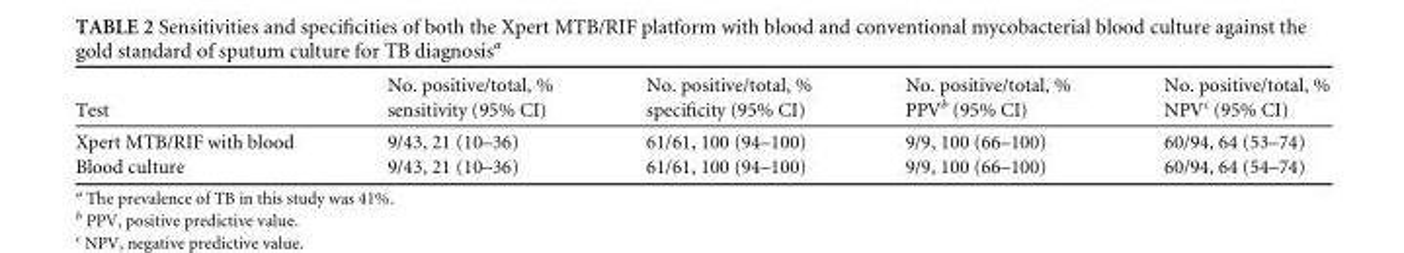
<table><thead><tr><td>Test</td><td>No. positive/total, % sensitivity (95% CI)</td><td>No. positive/total, % specificity (95% CI)</td><td>No. positive/total, % PPV<sup>b</sup> (95% CI)</td><td>No. positive/total, % NPV<sup>c</sup> (95% CI)</td></tr></thead><tbody><tr><td>Xpert MTB/RIF with blood</td><td>9/43, 21 (10–36)</td><td>61/61, 100 (94–100)</td><td>9/9, 100 (66–100)</td><td>60/94, 64 (53–74)</td></tr><tr><td>Blood culture</td><td>9/43, 21 (10–36)</td><td>61/61, 100 (94–100)</td><td>9/9, 100 (66–100)</td><td>60/94, 64 (54–74)</td></tr></tbody></table>